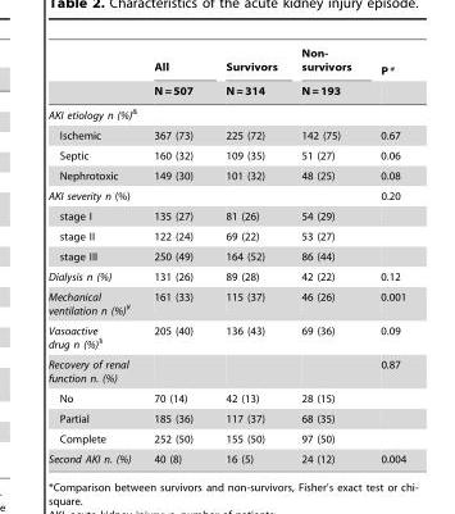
<table><thead><tr><td rowspan="2"></td><td rowspan="2">All N = 507</td><td rowspan="2">Survivors N = 314</td><td rowspan="2">Non- survivors N = 193</td><td rowspan="2">P*</td></tr><tr></tr></thead><tbody><tr><td colspan="5">AKI etiology n (%)<sup>&amp;</sup></td></tr><tr><td>Ischemic</td><td>367 (73)</td><td>225 (72)</td><td>142 (75)</td><td>0.67</td></tr><tr><td>Septic</td><td>160 (32)</td><td>109 (35)</td><td>51 (27)</td><td>0.06</td></tr><tr><td>Nephrotoxic</td><td>149 (30)</td><td>101 (32)</td><td>48 (25)</td><td>0.08</td></tr><tr><td>AKI severity n (%)</td><td></td><td></td><td></td><td>0.20</td></tr><tr><td>stage I</td><td>135 (27)</td><td>81 (26)</td><td>54 (29)</td><td></td></tr><tr><td>stage II</td><td>122 (24)</td><td>69 (22)</td><td>53 (27)</td><td></td></tr><tr><td>stage III</td><td>250 (49)</td><td>164 (52)</td><td>86 (44)</td><td></td></tr><tr><td>Dialysis n (%)</td><td>131 (26)</td><td>89 (28)</td><td>42 (22)</td><td>0.12</td></tr><tr><td>Mechanical ventilation n (%)¥</td><td>161 (33)</td><td>115 (37)</td><td>46 (26)</td><td>0.001</td></tr><tr><td>Vasoactive drug n (%)§</td><td>205 (40)</td><td>136 (43)</td><td>69 (36)</td><td>0.09</td></tr><tr><td>Recovery of renal function n. (%)</td><td></td><td></td><td></td><td>0.87</td></tr><tr><td>No</td><td>70 (14)</td><td>42 (13)</td><td>28 (15)</td><td></td></tr><tr><td>Partial</td><td>185 (36)</td><td>117 (37)</td><td>68 (35)</td><td></td></tr><tr><td>Complete</td><td>252 (50)</td><td>155 (50)</td><td>97 (50)</td><td></td></tr><tr><td>Second AKI n. (%)</td><td>40 (8)</td><td>16 (5)</td><td>24 (12)</td><td>0.004</td></tr></tbody></table>